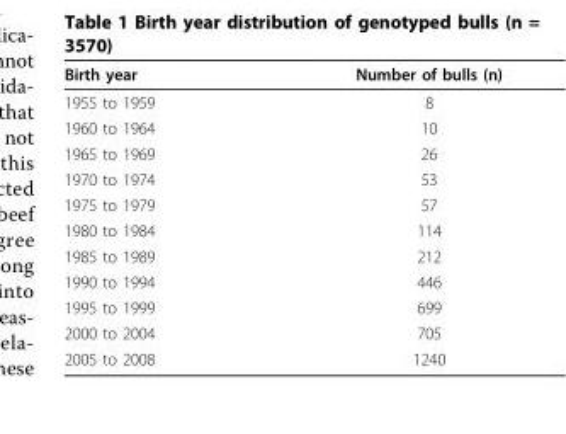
<table><thead><tr><td>Birth year</td><td>Number of bulls (n)</td></tr></thead><tbody><tr><td>1955 to 1959</td><td>8</td></tr><tr><td>1960 to 1964</td><td>10</td></tr><tr><td>1965 to 1969</td><td>26</td></tr><tr><td>1970 to 1974</td><td>53</td></tr><tr><td>1975 to 1979</td><td>57</td></tr><tr><td>1980 to 1984</td><td>114</td></tr><tr><td>1985 to 1989</td><td>212</td></tr><tr><td>1990 to 1994</td><td>446</td></tr><tr><td>1995 to 1999</td><td>699</td></tr><tr><td>2000 to 2004</td><td>705</td></tr><tr><td>2005 to 2008</td><td>1240</td></tr></tbody></table>